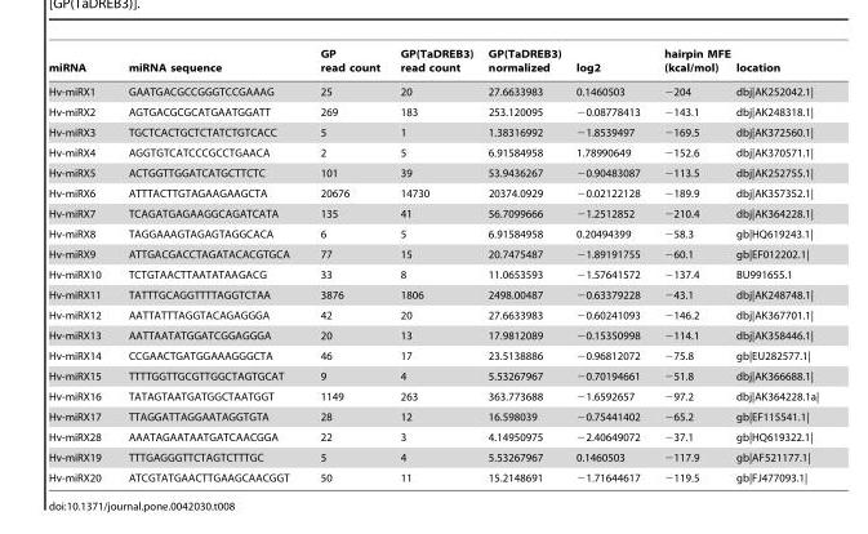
<table><thead><tr><td>miRNA</td><td>miRNA sequence</td><td>GP read count</td><td>GP(TaDREB3) read count</td><td>GP(TaDREB3) normalized</td><td>log2</td><td>hairpin MFE (kcal/mol)</td><td>location</td></tr></thead><tbody><tr><td>Hv-miRX1</td><td>GAATGACGCCGGGTCCGAAAG</td><td>25</td><td>20</td><td>27.6633983</td><td>0.1460503</td><td>−204</td><td>dbj|AK252042.1|</td></tr><tr><td>Hv-miRX2</td><td>AGTGACGCGCATGAATGGATT</td><td>269</td><td>183</td><td>253.120095</td><td>−0.08778413</td><td>−143.1</td><td>dbj|AK248318.1|</td></tr><tr><td>Hv-miRX3</td><td>TGCTCACTGCTCTATCTGTCACC</td><td>5</td><td>1</td><td>1.38316992</td><td>−1.8539497</td><td>−169.5</td><td>dbj|AK372560.1|</td></tr><tr><td>Hv-miRX4</td><td>AGGTGTCATCCCGCCTGAACA</td><td>2</td><td>5</td><td>6.91584958</td><td>1.78990649</td><td>−152.6</td><td>dbj|AK370571.1|</td></tr><tr><td>Hv-miRX5</td><td>ACTGGTTGGATCATGCTTCTC</td><td>101</td><td>39</td><td>53.9436267</td><td>−0.90483087</td><td>−113.5</td><td>dbj|AK252755.1|</td></tr><tr><td>Hv-miRX6</td><td>ATTTACTTGTAGAAGAAGCTA</td><td>20676</td><td>14730</td><td>20374.0929</td><td>−0.02122128</td><td>−189.9</td><td>dbj|AK357352.1|</td></tr><tr><td>Hv-miRX7</td><td>TCAGATGAGAAGGCAGATCATA</td><td>135</td><td>41</td><td>56.7099666</td><td>−1.2512852</td><td>−210.4</td><td>dbj|AK364228.1|</td></tr><tr><td>Hv-miRX8</td><td>TAGGAAAGTAGAGTAGGCACA</td><td>6</td><td>5</td><td>6.91584958</td><td>0.20494399</td><td>−58.3</td><td>gb|HQ619243.1|</td></tr><tr><td>Hv-miRX9</td><td>ATTGACGACCTAGATACACGTGCA</td><td>77</td><td>15</td><td>20.7475487</td><td>−1.89191755</td><td>−60.1</td><td>gb|EF012202.1|</td></tr><tr><td>Hv-miRX10</td><td>TCTGTAACTTAATATAAGACG</td><td>33</td><td>8</td><td>11.0653593</td><td>−1.57641572</td><td>−137.4</td><td>BU991655.1</td></tr><tr><td>Hv-miRX11</td><td>TATTTGCAGGTTTTAGGTCTAA</td><td>3876</td><td>1806</td><td>2498.00487</td><td>−0.63379228</td><td>−43.1</td><td>dbj|AK248748.1|</td></tr><tr><td>Hv-miRX12</td><td>AATTATTTAGGTACAGAGGGA</td><td>42</td><td>20</td><td>27.6633983</td><td>−0.60241093</td><td>−146.2</td><td>dbj|AK367701.1|</td></tr><tr><td>Hv-miRX13</td><td>AATTAATATGGATCGGAGGGA</td><td>20</td><td>13</td><td>17.9812089</td><td>−0.15350998</td><td>−114.1</td><td>dbj|AK358446.1|</td></tr><tr><td>Hv-miRX14</td><td>CCGAACTGATGGAAAGGGCTA</td><td>46</td><td>17</td><td>23.5138886</td><td>−0.96812072</td><td>−75.8</td><td>gb|EU282577.1|</td></tr><tr><td>Hv-miRX15</td><td>TTTTGGTTGCGTTGGCTAGTGCAT</td><td>9</td><td>4</td><td>5.53267967</td><td>−0.70194661</td><td>−51.8</td><td>dbj|AK366688.1|</td></tr><tr><td>Hv-miRX16</td><td>TATAGTAATGATGGCTAATGGT</td><td>1149</td><td>263</td><td>363.773688</td><td>−1.6592657</td><td>−97.2</td><td>dbj|AK364228.1a|</td></tr><tr><td>Hv-miRX17</td><td>TTAGGATTAGGAATAGGTGTA</td><td>28</td><td>12</td><td>16.598039</td><td>−0.75441402</td><td>−65.2</td><td>gb|EF115541.1|</td></tr><tr><td>Hv-miRX28</td><td>AAATAGAATAATGATCAACGGA</td><td>22</td><td>3</td><td>4.14950975</td><td>−2.40649072</td><td>−37.1</td><td>gb|HQ619322.1|</td></tr><tr><td>Hv-miRX19</td><td>TTTGAGGGTTCTAGTCTTTGC</td><td>5</td><td>4</td><td>5.53267967</td><td>0.1460503</td><td>−117.9</td><td>gb|AF521177.1|</td></tr><tr><td>Hv-miRX20</td><td>ATCGTATGAACTTGAAGCAACGGT</td><td>50</td><td>11</td><td>15.2148691</td><td>−1.71644617</td><td>−119.5</td><td>gb|FJ477093.1|</td></tr></tbody></table>